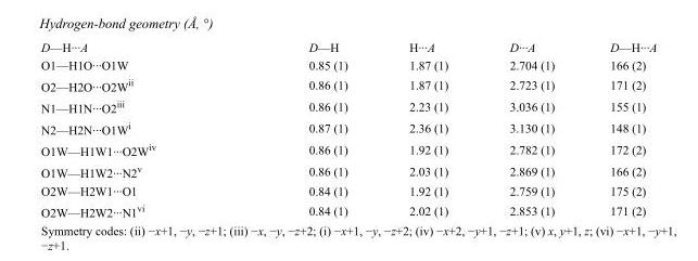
<table><tbody><tr><td>D—H···A</td><td>D—H</td><td>H···A</td><td>D···A</td><td>D—H···A</td></tr><tr><td>O1—H1O···O1W</td><td>0.85 (1)</td><td>1.87 (1)</td><td>2.704 (1)</td><td>166 (2)</td></tr><tr><td>O2—H2O···O2W<sup>ii</sup></td><td>0.86 (1)</td><td>1.87 (1)</td><td>2.723 (1)</td><td>171 (2)</td></tr><tr><td>N1—H1N···O2<sup>iii</sup></td><td>0.86 (1)</td><td>2.23 (1)</td><td>3.036 (1)</td><td>155 (1)</td></tr><tr><td>N2—H2N···O1W<sup>i</sup></td><td>0.87 (1)</td><td>2.36 (1)</td><td>3.130 (1)</td><td>148 (1)</td></tr><tr><td>O1W—H1W1···O2W<sup>iv</sup></td><td>0.86 (1)</td><td>1.92 (1)</td><td>2.782 (1)</td><td>172 (2)</td></tr><tr><td>O1W—H1W2···N2<sup>v</sup></td><td>0.86 (1)</td><td>2.03 (1)</td><td>2.869 (1)</td><td>166 (2)</td></tr><tr><td>O2W—H2W1···O1</td><td>0.84 (1)</td><td>1.92 (1)</td><td>2.759 (1)</td><td>175 (2)</td></tr><tr><td>O2W—H2W2···N1<sup>vi</sup></td><td>0.84 (1)</td><td>2.02 (1)</td><td>2.853 (1)</td><td>171 (2)</td></tr></tbody></table>